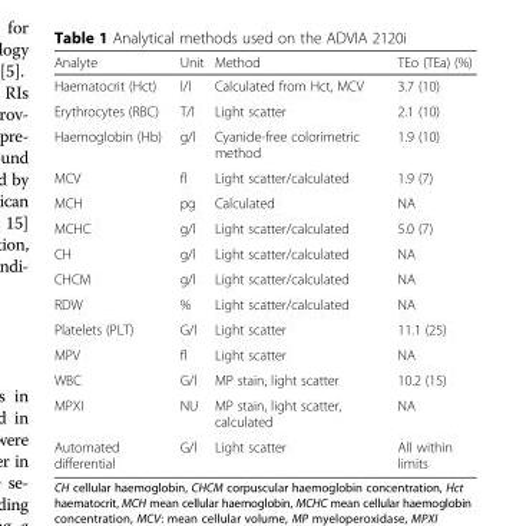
<table><thead><tr><td>Analyte</td><td>Unit</td><td>Method</td><td>TEo (TEa) (%)</td></tr></thead><tbody><tr><td>Haematocrit (Hct)</td><td>l/l</td><td>Calculated from Hct, MCV</td><td>3.7 (10)</td></tr><tr><td>Erythrocytes (RBC)</td><td>T/l</td><td>Light scatter</td><td>2.1 (10)</td></tr><tr><td>Haemoglobin (Hb)</td><td>g/l</td><td>Cyanide-free colorimetric method</td><td>1.9 (10)</td></tr><tr><td>MCV</td><td>fl</td><td>Light scatter/calculated</td><td>1.9 (7)</td></tr><tr><td>MCH</td><td>pg</td><td>Calculated</td><td>NA</td></tr><tr><td>MCHC</td><td>g/l</td><td>Light scatter/calculated</td><td>5.0 (7)</td></tr><tr><td>CH</td><td>g/l</td><td>Light scatter/calculated</td><td>NA</td></tr><tr><td>CHCM</td><td>g/l</td><td>Light scatter/calculated</td><td>NA</td></tr><tr><td>RDW</td><td>%</td><td>Light scatter/calculated</td><td>NA</td></tr><tr><td>Platelets (PLT)</td><td>G/l</td><td>Light scatter</td><td>11.1 (25)</td></tr><tr><td>MPV</td><td>fl</td><td>Light scatter</td><td>NA</td></tr><tr><td>WBC</td><td>G/l</td><td>MP stain, light scatter</td><td>10.2 (15)</td></tr><tr><td>MPXI</td><td>NU</td><td>MP stain, light scatter, calculated</td><td>NA</td></tr><tr><td>Automated differential</td><td>G/l</td><td>Light scatter</td><td>All within limits</td></tr></tbody></table>